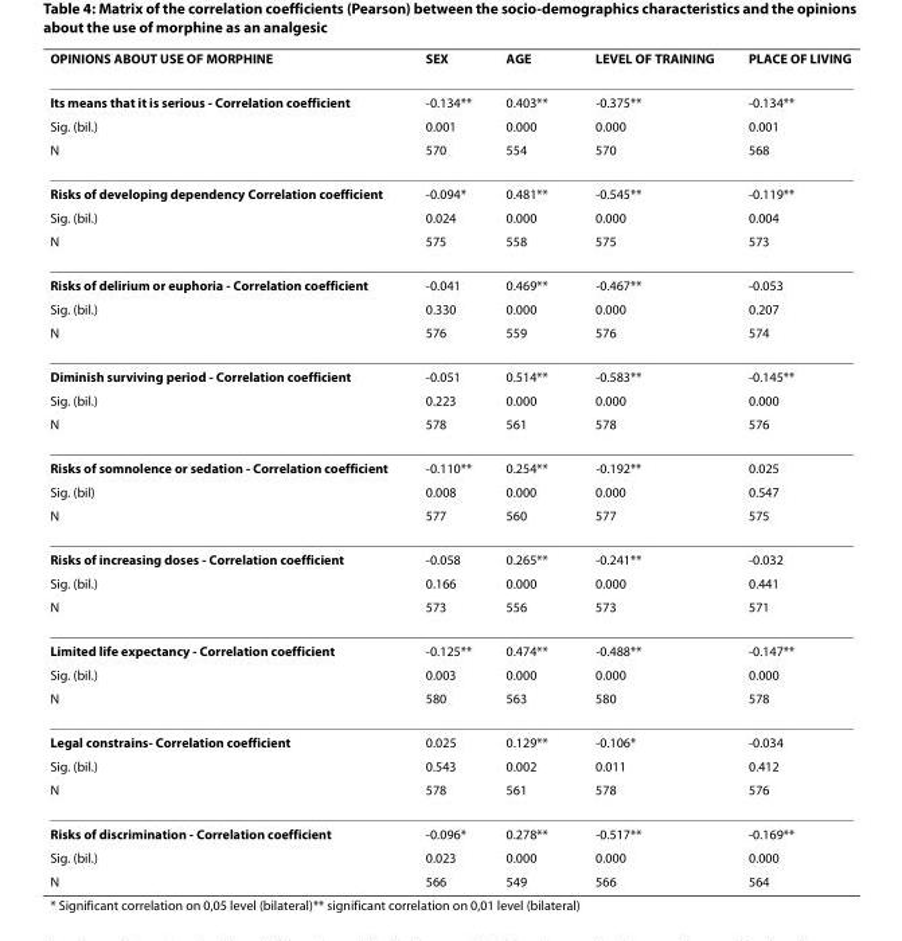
<table><thead><tr><td>OPINIONS ABOUT USE OF MORPHINE</td><td>SEX</td><td>AGE</td><td>LEVEL OF TRAINING</td><td>PLACE OF LIVING</td></tr></thead><tbody><tr><td>Its means that it is serious - Correlation coefficient</td><td>-0.134**</td><td>0.403**</td><td>-0.375**</td><td>-0.134**</td></tr><tr><td>Sig. (bil.)</td><td>0.001</td><td>0.000</td><td>0.000</td><td>0.001</td></tr><tr><td>N</td><td>570</td><td>554</td><td>570</td><td>568</td></tr><tr><td>Risks of developing dependency Correlation coefficient</td><td>-0.094*</td><td>0.481**</td><td>-0.545**</td><td>-0.119**</td></tr><tr><td>Sig. (bil.)</td><td>0.024</td><td>0.000</td><td>0.000</td><td>0.004</td></tr><tr><td>N</td><td>575</td><td>558</td><td>575</td><td>573</td></tr><tr><td>Risks of delirium or euphoria - Correlation coefficient</td><td>-0.041</td><td>0.469**</td><td>-0.467**</td><td>-0.053</td></tr><tr><td>Sig. (bil.)</td><td>0.330</td><td>0.000</td><td>0.000</td><td>0.207</td></tr><tr><td>N</td><td>576</td><td>559</td><td>576</td><td>574</td></tr><tr><td>Diminish surviving period - Correlation coefficient</td><td>-0.051</td><td>0.514**</td><td>-0.583**</td><td>-0.145**</td></tr><tr><td>Sig. (bil.)</td><td>0.223</td><td>0.000</td><td>0.000</td><td>0.000</td></tr><tr><td>N</td><td>578</td><td>561</td><td>578</td><td>576</td></tr><tr><td>Risks of somnolence or sedation - Correlation coefficient</td><td>-0.110**</td><td>0.254**</td><td>-0.192**</td><td>0.025</td></tr><tr><td>Sig. (bil)</td><td>0.008</td><td>0.000</td><td>0.000</td><td>0.547</td></tr><tr><td>N</td><td>577</td><td>560</td><td>577</td><td>575</td></tr><tr><td>Risks of increasing doses - Correlation coefficient</td><td>-0.058</td><td>0.265**</td><td>-0.241**</td><td>-0.032</td></tr><tr><td>Sig. (bil.)</td><td>0.166</td><td>0.000</td><td>0.000</td><td>0.441</td></tr><tr><td>N</td><td>573</td><td>556</td><td>573</td><td>571</td></tr><tr><td>Limited life expectancy - Correlation coefficient</td><td>-0.125**</td><td>0.474**</td><td>-0.488**</td><td>-0.147**</td></tr><tr><td>Sig. (bil.)</td><td>0.003</td><td>0.000</td><td>0.000</td><td>0.000</td></tr><tr><td>N</td><td>580</td><td>563</td><td>580</td><td>578</td></tr><tr><td>Legal constrains- Correlation coefficient</td><td>0.025</td><td>0.129**</td><td>-0.106*</td><td>-0.034</td></tr><tr><td>Sig. (bil.)</td><td>0.543</td><td>0.002</td><td>0.011</td><td>0.412</td></tr><tr><td>N</td><td>578</td><td>561</td><td>578</td><td>576</td></tr><tr><td>Risks of discrimination - Correlation coefficient</td><td>-0.096*</td><td>0.278**</td><td>-0.517**</td><td>-0.169**</td></tr><tr><td>Sig. (bil.)</td><td>0.023</td><td>0.000</td><td>0.000</td><td>0.000</td></tr><tr><td>N</td><td>566</td><td>549</td><td>566</td><td>564</td></tr></tbody></table>